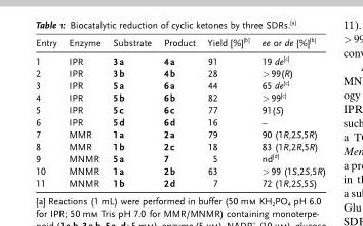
<table><thead><tr><td>Entry</td><td>Enzyme</td><td>Substrate</td><td>Product</td><td>Yield [%]<sup>[b]</sup></td><td>ee or de [%]<sup>[b]</sup></td></tr></thead><tbody><tr><td>1</td><td>IPR</td><td>3a</td><td>4a</td><td>91</td><td>19 de<sup>[c]</sup></td></tr><tr><td>2</td><td>IPR</td><td>3b</td><td>4b</td><td>28</td><td>&gt;99(R)</td></tr><tr><td>3</td><td>IPR</td><td>5a</td><td>6a</td><td>44</td><td>65 de<sup>[c]</sup></td></tr><tr><td>4</td><td>IPR</td><td>5b</td><td>6b</td><td>82</td><td>&gt;99<sup>[c]</sup></td></tr><tr><td>5</td><td>IPR</td><td>5c</td><td>6c</td><td>77</td><td>91(S)</td></tr><tr><td>6</td><td>IPR</td><td>5d</td><td>6d</td><td>16</td><td>–</td></tr><tr><td>7</td><td>MMR</td><td>1a</td><td>2a</td><td>79</td><td>90 (1R,2S,5R)</td></tr><tr><td>8</td><td>MMR</td><td>1b</td><td>2c</td><td>18</td><td>83 (1R,2R,5R)</td></tr><tr><td>9</td><td>MNMR</td><td>5a</td><td>7</td><td>5</td><td>nd<sup>[d]</sup></td></tr><tr><td>10</td><td>MNMR</td><td>1a</td><td>2b</td><td>63</td><td>&gt;99 (1S,2S,5R)</td></tr><tr><td>11</td><td>MNMR</td><td>1b</td><td>2d</td><td>7</td><td>72 (1R,2S,5S)</td></tr></tbody></table>